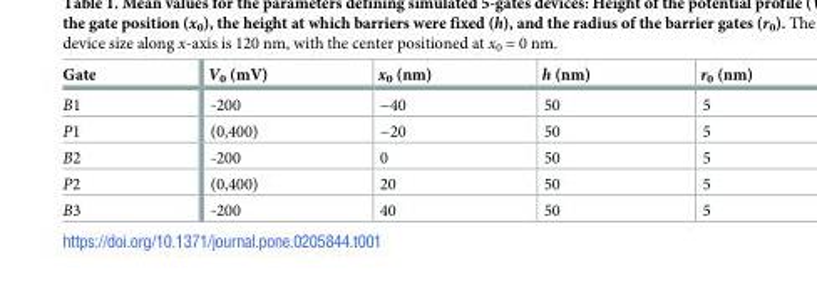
<table><thead><tr><td>Gate</td><td>V<sub>0</sub> (mV)</td><td>x<sub>0</sub> (nm)</td><td>h (nm)</td><td>r<sub>0</sub> (nm)</td></tr></thead><tbody><tr><td>B1</td><td>-200</td><td>−40</td><td>50</td><td>5</td></tr><tr><td>P1</td><td>(0,400)</td><td>−20</td><td>50</td><td>5</td></tr><tr><td>B2</td><td>-200</td><td>0</td><td>50</td><td>5</td></tr><tr><td>P2</td><td>(0,400)</td><td>20</td><td>50</td><td>5</td></tr><tr><td>B3</td><td>-200</td><td>40</td><td>50</td><td>5</td></tr></tbody></table>